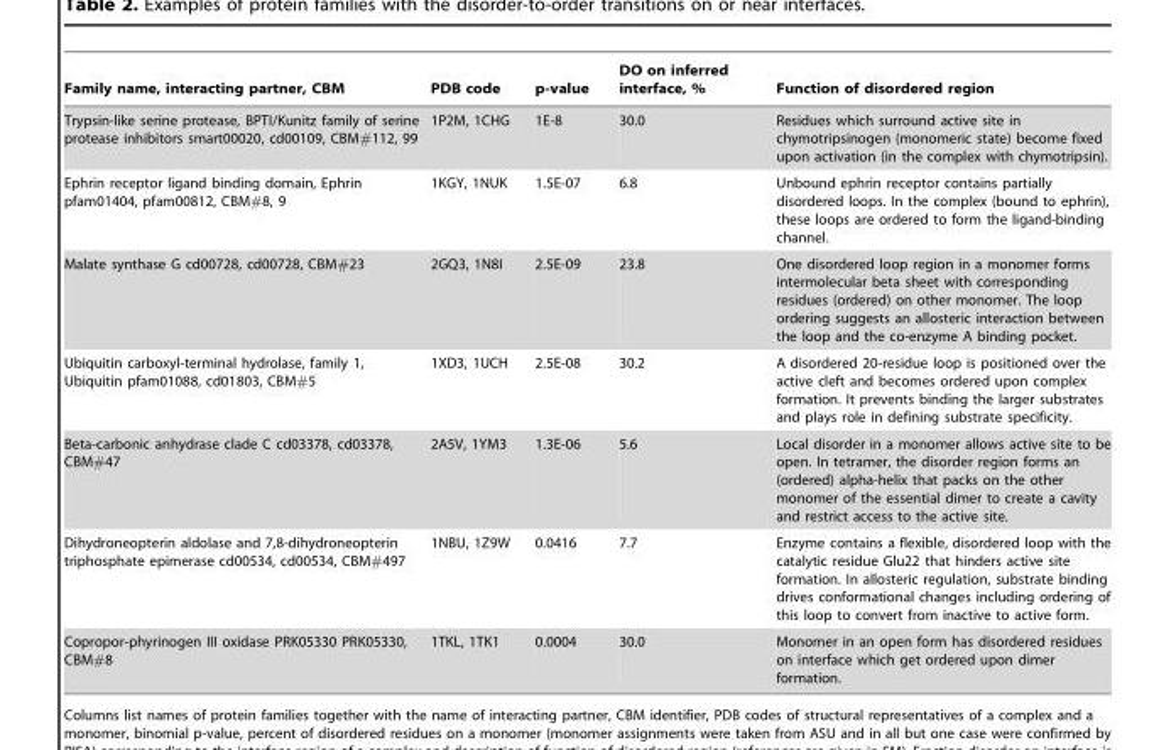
<table><thead><tr><td>Family name, interacting partner, CBM</td><td>PDB code</td><td>p-value</td><td>DO on inferred interface, %</td><td>Function of disordered region</td></tr></thead><tbody><tr><td>Trypsin-like serine protease, BPTI/Kunitz family of serine protease inhibitors smart00020, cd00109, CBM#112, 99</td><td>1P2M, 1CHG</td><td>1E-8</td><td>30.0</td><td>Residues which surround active site in chymotripsinogen (monomeric state) become fixed upon activation (in the complex with chymotripsin).</td></tr><tr><td>Ephrin receptor ligand binding domain, Ephrin pfam01404, pfam00812, CBM#8, 9</td><td>1KGY, 1NUK</td><td>1.5E-07</td><td>6.8</td><td>Unbound ephrin receptor contains partially disordered loops. In the complex (bound to ephrin), these loops are ordered to form the ligand-binding channel.</td></tr><tr><td>Malate synthase G cd00728, cd00728, CBM#23</td><td>2GQ3, 1N8I</td><td>2.5E-09</td><td>23.8</td><td>One disordered loop region in a monomer forms intermolecular beta sheet with corresponding residues (ordered) on other monomer. The loop ordering suggests an allosteric interaction between the loop and the co-enzyme A binding pocket.</td></tr><tr><td>Ubiquitin carboxyl-terminal hydrolase, family 1, Ubiquitin pfam01088, cd01803, CBM#5</td><td>1XD3, 1UCH</td><td>2.5E-08</td><td>30.2</td><td>A disordered 20-residue loop is positioned over the active cleft and becomes ordered upon complex formation. It prevents binding the larger substrates and plays role in defining substrate specificity.</td></tr><tr><td>Beta-carbonic anhydrase clade C cd03378, cd03378, CBM#47</td><td>2A5V, 1YM3</td><td>1.3E-06</td><td>5.6</td><td>Local disorder in a monomer allows active site to be open. In tetramer, the disorder region forms an (ordered) alpha-helix that packs on the other monomer of the essential dimer to create a cavity and restrict access to the active site.</td></tr><tr><td>Dihydroneopterin aldolase and 7,8-dihydroneopterin triphosphate epimerase cd00534, cd00534, CBM#497</td><td>1NBU, 1Z9W</td><td>0.0416</td><td>7.7</td><td>Enzyme contains a flexible, disordered loop with the catalytic residue Glu22 that hinders active site formation. In allosteric regulation, substrate binding drives conformational changes including ordering of this loop to convert from inactive to active form.</td></tr><tr><td>Copropor-phyrinogen III oxidase PRK05330 PRK05330, CBM#8</td><td>1TKL, 1TK1</td><td>0.0004</td><td>30.0</td><td>Monomer in an open form has disordered residues on interface which get ordered upon dimer formation.</td></tr></tbody></table>